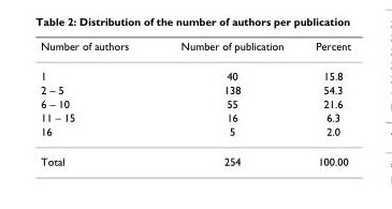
<table><thead><tr><td>Number of authors</td><td>Number of publication</td><td>Percent</td></tr></thead><tbody><tr><td>1</td><td>40</td><td>15.8</td></tr><tr><td>2 – 5</td><td>138</td><td>54.3</td></tr><tr><td>6 – 10</td><td>55</td><td>21.6</td></tr><tr><td>11 – 15</td><td>16</td><td>6.3</td></tr><tr><td>16</td><td>5</td><td>2.0</td></tr><tr><td>Total</td><td>254</td><td>100.00</td></tr></tbody></table>